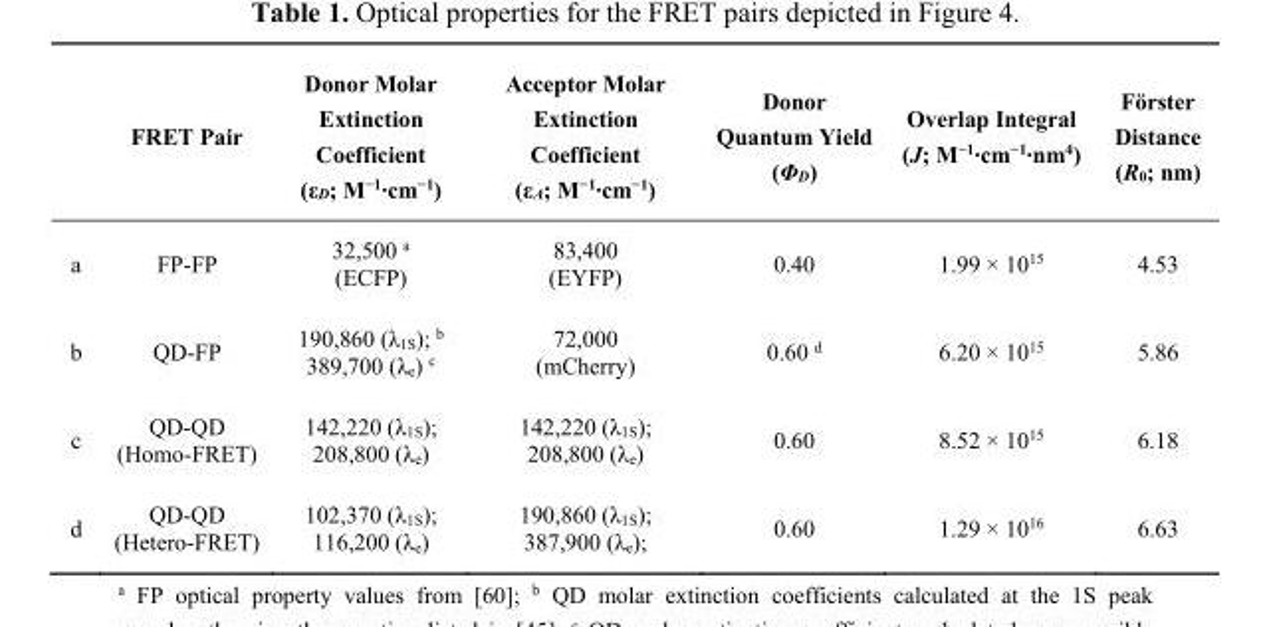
<table><thead><tr><td></td><td>FRET Pair</td><td>Donor Molar Extinction Coefficient (εD; M−1·cm−1)</td><td>Acceptor Molar Extinction Coefficient (εA; M−1·cm−1)</td><td>Donor Quantum Yield (Φ<sub>D</sub>)</td><td>Overlap Integral (J; M−1·cm−1·nm4)</td><td>Förster Distance (R<sub>0</sub>; nm)</td></tr></thead><tbody><tr><td>a</td><td>FP-FP</td><td>32,500 <sup>a</sup> (ECFP)</td><td>83,400 (EYFP)</td><td>0.40</td><td>1.99 × 10<sup>15</sup></td><td>4.53</td></tr><tr><td>b</td><td>QD-FP</td><td>190,860 (λ<sub>1S</sub>); <sup>b</sup> 389,700 (λ<sub>e</sub>) <sup>c</sup></td><td>72,000 (mCherry)</td><td>0.60 <sup>d</sup></td><td>6.20 × 10<sup>15</sup></td><td>5.86</td></tr><tr><td>c</td><td>QD-QD (Homo-FRET)</td><td>142,220 (λ<sub>1S</sub>); 208,800 (λ<sub>e</sub>)</td><td>142,220 (λ<sub>1S</sub>); 208,800 (λ<sub>e</sub>)</td><td>0.60</td><td>8.52 × 10<sup>15</sup></td><td>6.18</td></tr><tr><td>d</td><td>QD-QD (Hetero-FRET)</td><td>102,370 (λ<sub>1S</sub>); 116,200 (λ<sub>e</sub>)</td><td>190,860 (λ<sub>1S</sub>); 387,900 (λ<sub>e</sub>);</td><td>0.60</td><td>1.29 × 10<sup>16</sup></td><td>6.63</td></tr></tbody></table>